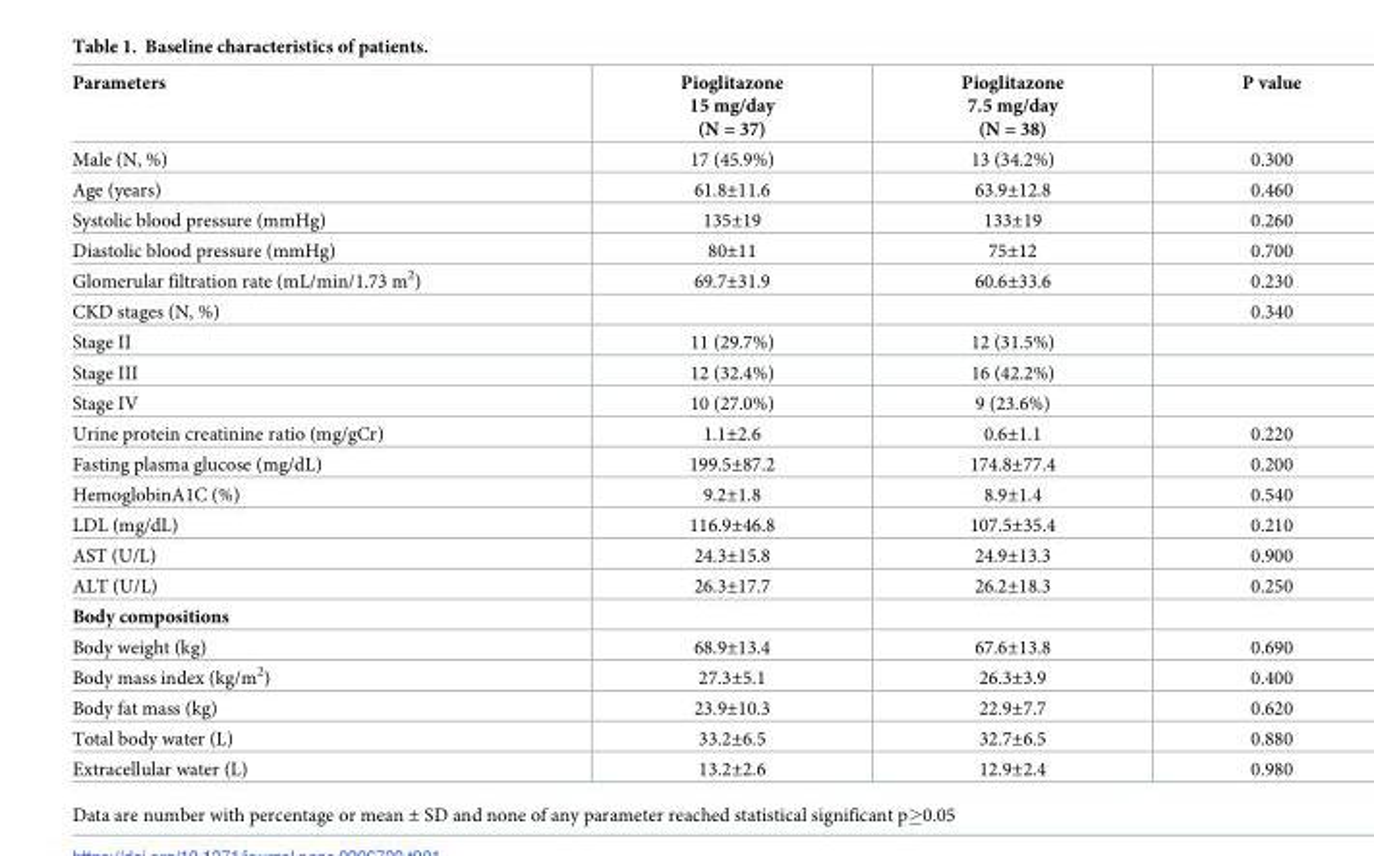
<table><thead><tr><td>Parameters</td><td>Pioglitazone 15 mg/day (N = 37)</td><td>Pioglitazone 7.5 mg/day (N = 38)</td><td>P value</td></tr></thead><tbody><tr><td>Male (N, %)</td><td>17 (45.9%)</td><td>13 (34.2%)</td><td>0.300</td></tr><tr><td>Age (years)</td><td>61.8±11.6</td><td>63.9±12.8</td><td>0.460</td></tr><tr><td>Systolic blood pressure (mmHg)</td><td>135±19</td><td>133±19</td><td>0.260</td></tr><tr><td>Diastolic blood pressure (mmHg)</td><td>80±11</td><td>75±12</td><td>0.700</td></tr><tr><td>Glomerular filtration rate (mL/min/1.73 m<sup>2</sup>)</td><td>69.7±31.9</td><td>60.6±33.6</td><td>0.230</td></tr><tr><td>CKD stages (N, %)</td><td></td><td></td><td>0.340</td></tr><tr><td>Stage II</td><td>11 (29.7%)</td><td>12 (31.5%)</td><td></td></tr><tr><td>Stage III</td><td>12 (32.4%)</td><td>16 (42.2%)</td><td></td></tr><tr><td>Stage IV</td><td>10 (27.0%)</td><td>9 (23.6%)</td><td></td></tr><tr><td>Urine protein creatinine ratio (mg/gCr)</td><td>1.1±2.6</td><td>0.6±1.1</td><td>0.220</td></tr><tr><td>Fasting plasma glucose (mg/dL)</td><td>199.5±87.2</td><td>174.8±77.4</td><td>0.200</td></tr><tr><td>HemoglobinA1C (%)</td><td>9.2±1.8</td><td>8.9±1.4</td><td>0.540</td></tr><tr><td>LDL (mg/dL)</td><td>116.9±46.8</td><td>107.5±35.4</td><td>0.210</td></tr><tr><td>AST (U/L)</td><td>24.3±15.8</td><td>24.9±13.3</td><td>0.900</td></tr><tr><td>ALT (U/L)</td><td>26.3±17.7</td><td>26.2±18.3</td><td>0.250</td></tr><tr><td colspan="4">Body compositions</td></tr><tr><td>Body weight (kg)</td><td>68.9±13.4</td><td>67.6±13.8</td><td>0.690</td></tr><tr><td>Body mass index (kg/m<sup>2</sup>)</td><td>27.3±5.1</td><td>26.3±3.9</td><td>0.400</td></tr><tr><td>Body fat mass (kg)</td><td>23.9±10.3</td><td>22.9±7.7</td><td>0.620</td></tr><tr><td>Total body water (L)</td><td>33.2±6.5</td><td>32.7±6.5</td><td>0.880</td></tr><tr><td>Extracellular water (L)</td><td>13.2±2.6</td><td>12.9±2.4</td><td>0.980</td></tr></tbody></table>